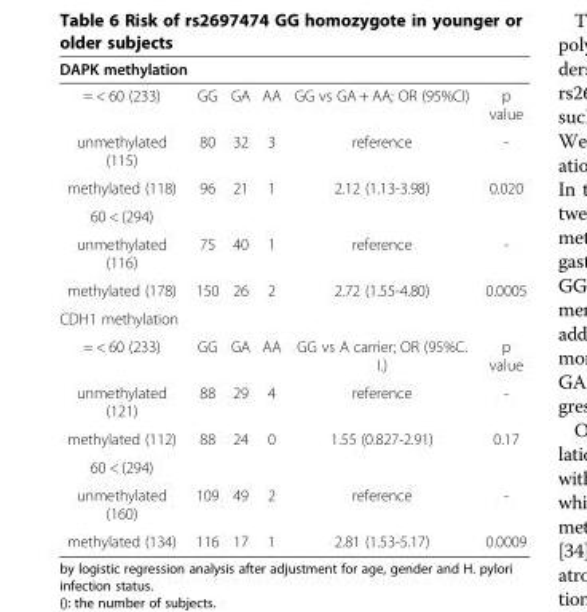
<table><thead><tr><td>DAPK methylation</td><td></td><td></td><td></td><td></td><td></td></tr></thead><tbody><tr><td>= &lt; 60 (233)</td><td>GG</td><td>GA</td><td>AA</td><td>GG vs GA + AA; OR (95%CI)</td><td>p value</td></tr><tr><td>unmethylated (115)</td><td>80</td><td>32</td><td>3</td><td>reference</td><td>-</td></tr><tr><td>methylated (118)</td><td>96</td><td>21</td><td>1</td><td>2.12 (1.13-3.98)</td><td>0.020</td></tr><tr><td colspan="6">60 &lt; (294)</td></tr><tr><td>unmethylated (116)</td><td>75</td><td>40</td><td>1</td><td>reference</td><td>-</td></tr><tr><td>methylated (178)</td><td>150</td><td>26</td><td>2</td><td>2.72 (1.55-4.80)</td><td>0.0005</td></tr><tr><td colspan="6">CDH1 methylation</td></tr><tr><td>= &lt; 60 (233)</td><td>GG</td><td>GA</td><td>AA</td><td>GG vs A carrier; OR (95%C. I.)</td><td>p value</td></tr><tr><td>unmethylated (121)</td><td>88</td><td>29</td><td>4</td><td>reference</td><td>-</td></tr><tr><td>methylated (112)</td><td>88</td><td>24</td><td>0</td><td>1.55 (0.827-2.91)</td><td>0.17</td></tr><tr><td colspan="6">60 &lt; (294)</td></tr><tr><td>unmethylated (160)</td><td>109</td><td>49</td><td>2</td><td>reference</td><td>-</td></tr><tr><td>methylated (134)</td><td>116</td><td>17</td><td>1</td><td>2.81 (1.53-5.17)</td><td>0.0009</td></tr></tbody></table>